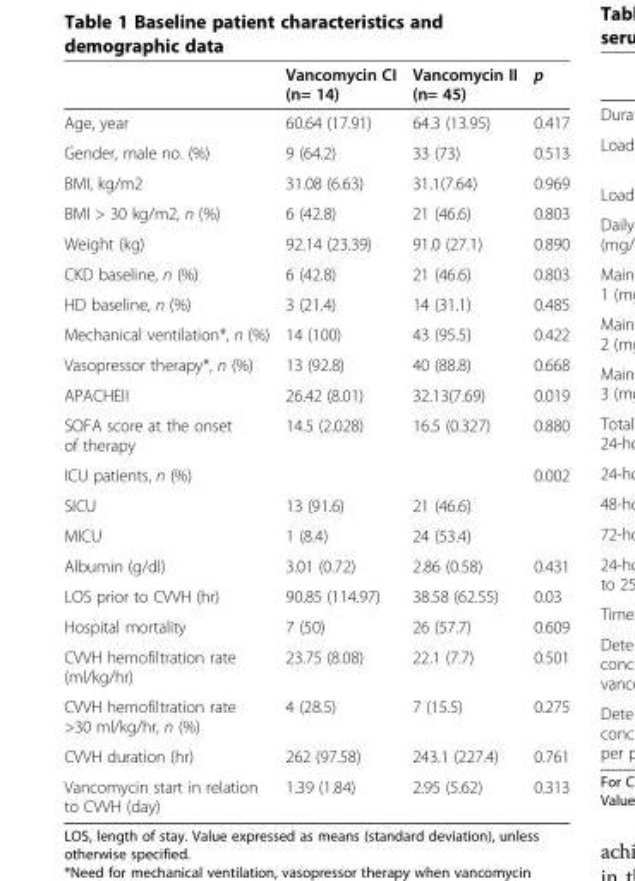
<table><thead><tr><td></td><td>Vancomycin CI (n= 14)</td><td>Vancomycin II (n= 45)</td><td>p</td></tr></thead><tbody><tr><td>Age, year</td><td>60.64 (17.91)</td><td>64.3 (13.95)</td><td>0.417</td></tr><tr><td>Gender, male no. (%)</td><td>9 (64.2)</td><td>33 (73)</td><td>0.513</td></tr><tr><td>BMI, kg/m2</td><td>31.08 (6.63)</td><td>31.1(7.64)</td><td>0.969</td></tr><tr><td>BMI &gt; 30 kg/m2, n (%)</td><td>6 (42.8)</td><td>21 (46.6)</td><td>0.803</td></tr><tr><td>Weight (kg)</td><td>92.14 (23.39)</td><td>91.0 (27.1)</td><td>0.890</td></tr><tr><td>CKD baseline, n (%)</td><td>6 (42.8)</td><td>21 (46.6)</td><td>0.803</td></tr><tr><td>HD baseline, n (%)</td><td>3 (21.4)</td><td>14 (31.1)</td><td>0.485</td></tr><tr><td>Mechanical ventilation*, n (%)</td><td>14 (100)</td><td>43 (95.5)</td><td>0.422</td></tr><tr><td>Vasopressor therapy*, n (%)</td><td>13 (92.8)</td><td>40 (88.8)</td><td>0.668</td></tr><tr><td>APACHEII</td><td>26.42 (8.01)</td><td>32.13(7.69)</td><td>0.019</td></tr><tr><td>SOFA score at the onset of therapy</td><td>14.5 (2.028)</td><td>16.5 (0.327)</td><td>0.880</td></tr><tr><td>ICU patients, n (%)</td><td></td><td></td><td>0.002</td></tr><tr><td>SICU</td><td>13 (91.6)</td><td>21 (46.6)</td><td></td></tr><tr><td>MICU</td><td>1 (8.4)</td><td>24 (53.4)</td><td></td></tr><tr><td>Albumin (g/dl)</td><td>3.01 (0.72)</td><td>2.86 (0.58)</td><td>0.431</td></tr><tr><td>LOS prior to CVVH (hr)</td><td>90.85 (114.97)</td><td>38.58 (62.55)</td><td>0.03</td></tr><tr><td>Hospital mortality</td><td>7 (50)</td><td>26 (57.7)</td><td>0.609</td></tr><tr><td>CVVH hemofiltration rate (ml/kg/hr)</td><td>23.75 (8.08)</td><td>22.1 (7.7)</td><td>0.501</td></tr><tr><td>CVVH hemofiltration rate &gt;30 ml/kg/hr, n (%)</td><td>4 (28.5)</td><td>7 (15.5)</td><td>0.275</td></tr><tr><td>CVVH duration (hr)</td><td>262 (97.58)</td><td>243.1 (227.4)</td><td>0.761</td></tr><tr><td>Vancomycin start in relation to CVVH (day)</td><td>1.39 (1.84)</td><td>2.95 (5.62)</td><td>0.313</td></tr></tbody></table>